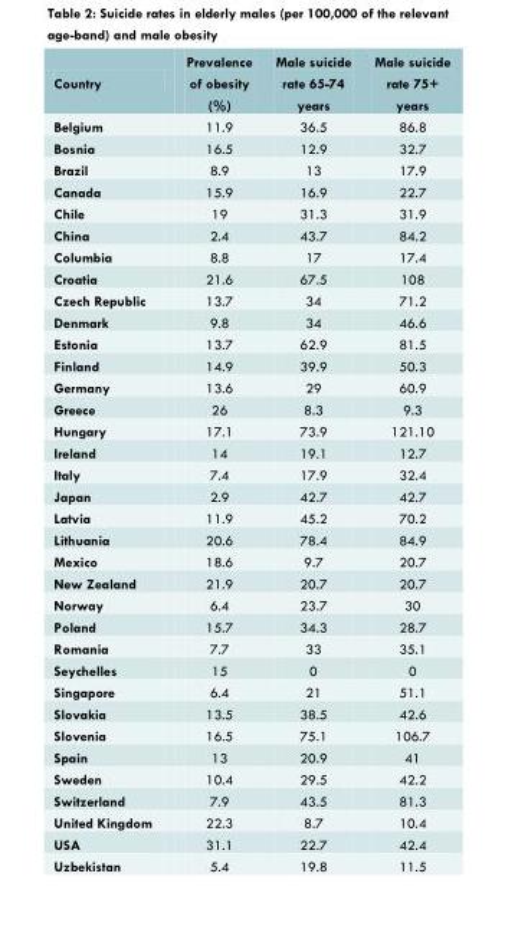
<table><thead><tr><td>Country</td><td>Prevalence of obesity (%)</td><td>Male suicide rate 65-74 years</td><td>Male suicide rate 75+ years</td></tr></thead><tbody><tr><td>Belgium</td><td>11.9</td><td>36.5</td><td>86.8</td></tr><tr><td>Bosnia</td><td>16.5</td><td>12.9</td><td>32.7</td></tr><tr><td>Brazil</td><td>8.9</td><td>13</td><td>17.9</td></tr><tr><td>Canada</td><td>15.9</td><td>16.9</td><td>22.7</td></tr><tr><td>Chile</td><td>19</td><td>31.3</td><td>31.9</td></tr><tr><td>China</td><td>2.4</td><td>43.7</td><td>84.2</td></tr><tr><td>Columbia</td><td>8.8</td><td>17</td><td>17.4</td></tr><tr><td>Croatia</td><td>21.6</td><td>67.5</td><td>108</td></tr><tr><td>Czech Republic</td><td>13.7</td><td>34</td><td>71.2</td></tr><tr><td>Denmark</td><td>9.8</td><td>34</td><td>46.6</td></tr><tr><td>Estonia</td><td>13.7</td><td>62.9</td><td>81.5</td></tr><tr><td>Finland</td><td>14.9</td><td>39.9</td><td>50.3</td></tr><tr><td>Germany</td><td>13.6</td><td>29</td><td>60.9</td></tr><tr><td>Greece</td><td>26</td><td>8.3</td><td>9.3</td></tr><tr><td>Hungary</td><td>17.1</td><td>73.9</td><td>121.10</td></tr><tr><td>Ireland</td><td>14</td><td>19.1</td><td>12.7</td></tr><tr><td>Italy</td><td>7.4</td><td>17.9</td><td>32.4</td></tr><tr><td>Japan</td><td>2.9</td><td>42.7</td><td>42.7</td></tr><tr><td>Latvia</td><td>11.9</td><td>45.2</td><td>70.2</td></tr><tr><td>Lithuania</td><td>20.6</td><td>78.4</td><td>84.9</td></tr><tr><td>Mexico</td><td>18.6</td><td>9.7</td><td>20.7</td></tr><tr><td>New Zealand</td><td>21.9</td><td>20.7</td><td>20.7</td></tr><tr><td>Norway</td><td>6.4</td><td>23.7</td><td>30</td></tr><tr><td>Poland</td><td>15.7</td><td>34.3</td><td>28.7</td></tr><tr><td>Romania</td><td>7.7</td><td>33</td><td>35.1</td></tr><tr><td>Seychelles</td><td>15</td><td>0</td><td>0</td></tr><tr><td>Singapore</td><td>6.4</td><td>21</td><td>51.1</td></tr><tr><td>Slovakia</td><td>13.5</td><td>38.5</td><td>42.6</td></tr><tr><td>Slovenia</td><td>16.5</td><td>75.1</td><td>106.7</td></tr><tr><td>Spain</td><td>13</td><td>20.9</td><td>41</td></tr><tr><td>Sweden</td><td>10.4</td><td>29.5</td><td>42.2</td></tr><tr><td>Switzerland</td><td>7.9</td><td>43.5</td><td>81.3</td></tr><tr><td>United Kingdom</td><td>22.3</td><td>8.7</td><td>10.4</td></tr><tr><td>USA</td><td>31.1</td><td>22.7</td><td>42.4</td></tr><tr><td>Uzbekistan</td><td>5.4</td><td>19.8</td><td>11.5</td></tr></tbody></table>